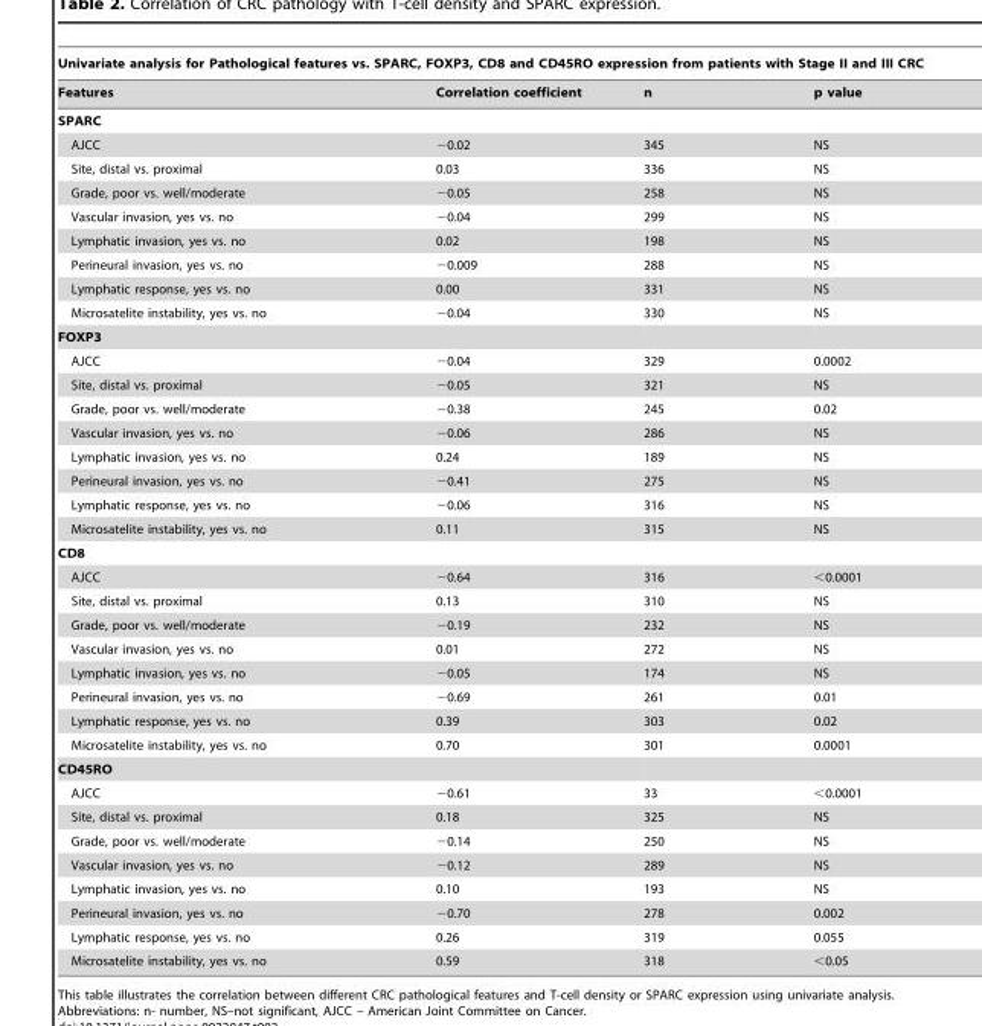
<table><thead><tr><td colspan="4">Univariate analysis for Pathological features vs. SPARC, FOXP3, CD8 and CD45RO expression from patients with Stage II and III CRC</td></tr><tr><td>Features</td><td>Correlation coefficient</td><td>n</td><td>p value</td></tr></thead><tbody><tr><td colspan="4">SPARC</td></tr><tr><td>AJCC</td><td>−0.02</td><td>345</td><td>NS</td></tr><tr><td>Site, distal vs. proximal</td><td>0.03</td><td>336</td><td>NS</td></tr><tr><td>Grade, poor vs. well/moderate</td><td>−0.05</td><td>258</td><td>NS</td></tr><tr><td>Vascular invasion, yes vs. no</td><td>−0.04</td><td>299</td><td>NS</td></tr><tr><td>Lymphatic invasion, yes vs. no</td><td>0.02</td><td>198</td><td>NS</td></tr><tr><td>Perineural invasion, yes vs. no</td><td>−0.009</td><td>288</td><td>NS</td></tr><tr><td>Lymphatic response, yes vs. no</td><td>0.00</td><td>331</td><td>NS</td></tr><tr><td>Microsatelite instability, yes vs. no</td><td>−0.04</td><td>330</td><td>NS</td></tr><tr><td colspan="4">FOXP3</td></tr><tr><td>AJCC</td><td>−0.04</td><td>329</td><td>0.0002</td></tr><tr><td>Site, distal vs. proximal</td><td>−0.05</td><td>321</td><td>NS</td></tr><tr><td>Grade, poor vs. well/moderate</td><td>−0.38</td><td>245</td><td>0.02</td></tr><tr><td>Vascular invasion, yes vs. no</td><td>−0.06</td><td>286</td><td>NS</td></tr><tr><td>Lymphatic invasion, yes vs. no</td><td>0.24</td><td>189</td><td>NS</td></tr><tr><td>Perineural invasion, yes vs. no</td><td>−0.41</td><td>275</td><td>NS</td></tr><tr><td>Lymphatic response, yes vs. no</td><td>−0.06</td><td>316</td><td>NS</td></tr><tr><td>Microsatelite instability, yes vs. no</td><td>0.11</td><td>315</td><td>NS</td></tr><tr><td colspan="4">CD8</td></tr><tr><td>AJCC</td><td>−0.64</td><td>316</td><td>&lt;0.0001</td></tr><tr><td>Site, distal vs. proximal</td><td>0.13</td><td>310</td><td>NS</td></tr><tr><td>Grade, poor vs. well/moderate</td><td>−0.19</td><td>232</td><td>NS</td></tr><tr><td>Vascular invasion, yes vs. no</td><td>0.01</td><td>272</td><td>NS</td></tr><tr><td>Lymphatic invasion, yes vs. no</td><td>−0.05</td><td>174</td><td>NS</td></tr><tr><td>Perineural invasion, yes vs. no</td><td>−0.69</td><td>261</td><td>0.01</td></tr><tr><td>Lymphatic response, yes vs. no</td><td>0.39</td><td>303</td><td>0.02</td></tr><tr><td>Microsatelite instability, yes vs. no</td><td>0.70</td><td>301</td><td>0.0001</td></tr><tr><td colspan="4">CD45RO</td></tr><tr><td>AJCC</td><td>−0.61</td><td>33</td><td>&lt;0.0001</td></tr><tr><td>Site, distal vs. proximal</td><td>0.18</td><td>325</td><td>NS</td></tr><tr><td>Grade, poor vs. well/moderate</td><td>−0.14</td><td>250</td><td>NS</td></tr><tr><td>Vascular invasion, yes vs. no</td><td>−0.12</td><td>289</td><td>NS</td></tr><tr><td>Lymphatic invasion, yes vs. no</td><td>0.10</td><td>193</td><td>NS</td></tr><tr><td>Perineural invasion, yes vs. no</td><td>−0.70</td><td>278</td><td>0.002</td></tr><tr><td>Lymphatic response, yes vs. no</td><td>0.26</td><td>319</td><td>0.055</td></tr><tr><td>Microsatelite instability, yes vs. no</td><td>0.59</td><td>318</td><td>&lt;0.05</td></tr></tbody></table>